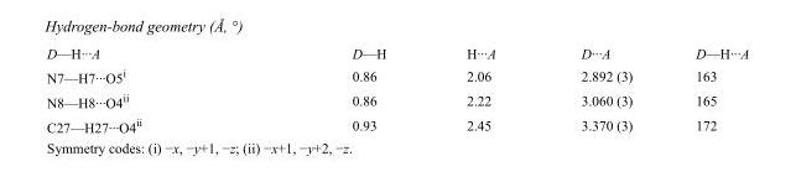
<table><tbody><tr><td>D—H···A</td><td>D—H</td><td>H···A</td><td>D···A</td><td>D—H···A</td></tr><tr><td>N7—H7···O5<sup>i</sup></td><td>0.86</td><td>2.06</td><td>2.892 (3)</td><td>163</td></tr><tr><td>N8—H8···O4<sup>ii</sup></td><td>0.86</td><td>2.22</td><td>3.060 (3)</td><td>165</td></tr><tr><td>C27—H27···O4<sup>ii</sup></td><td>0.93</td><td>2.45</td><td>3.370 (3)</td><td>172</td></tr></tbody></table>